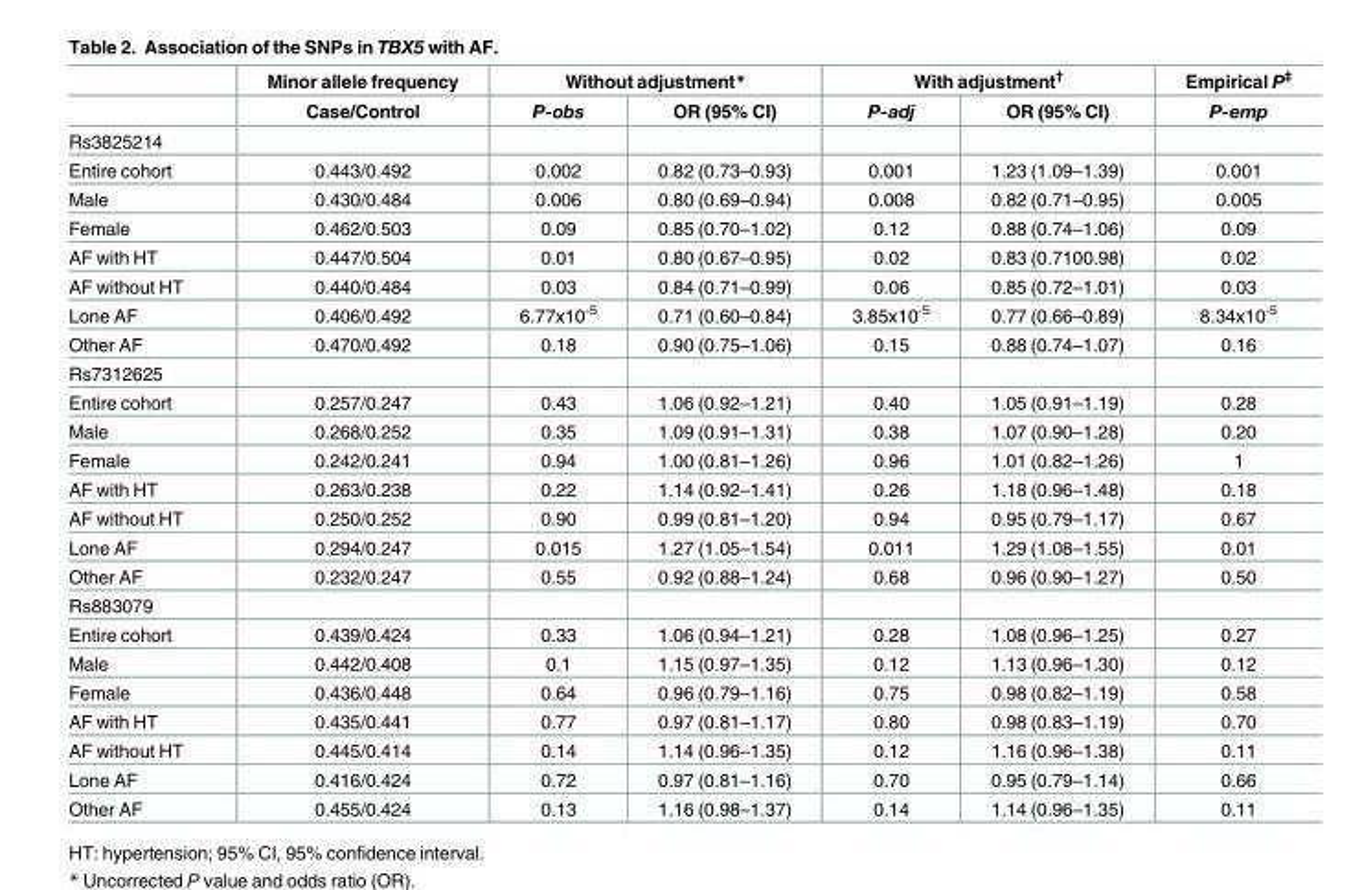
<table><thead><tr><td rowspan="2"></td><td rowspan="2">Minor allele frequency Case/Control</td><td colspan="2">Without adjustment*</td><td colspan="2">With adjustment<sup>†</sup></td><td rowspan="2">Empirical P<sup>‡</sup> P-emp</td></tr><tr><td>P-obs</td><td>OR (95% CI)</td><td>P-adj</td><td>OR (95% CI)</td></tr></thead><tbody><tr><td colspan="7">Rs3825214</td></tr><tr><td>Entire cohort</td><td>0.443/0.492</td><td>0.002</td><td>0.82 (0.73–0.93)</td><td>0.001</td><td>1.23 (1.09–1.39)</td><td>0.001</td></tr><tr><td>Male</td><td>0.430/0.484</td><td>0.006</td><td>0.80 (0.69–0.94)</td><td>0.008</td><td>0.82 (0.71–0.95)</td><td>0.005</td></tr><tr><td>Female</td><td>0.462/0.503</td><td>0.09</td><td>0.85 (0.70–1.02)</td><td>0.12</td><td>0.88 (0.74–1.06)</td><td>0.09</td></tr><tr><td>AF with HT</td><td>0.447/0.504</td><td>0.01</td><td>0.80 (0.67–0.95)</td><td>0.02</td><td>0.83 (0.7100.98)</td><td>0.02</td></tr><tr><td>AF without HT</td><td>0.440/0.484</td><td>0.03</td><td>0.84 (0.71–0.99)</td><td>0.06</td><td>0.85 (0.72–1.01)</td><td>0.03</td></tr><tr><td>Lone AF</td><td>0.406/0.492</td><td>6.77x10<sup>-5</sup></td><td>0.71 (0.60–0.84)</td><td>3.85x10<sup>-5</sup></td><td>0.77 (0.66–0.89)</td><td>8.34x10<sup>-5</sup></td></tr><tr><td>Other AF</td><td>0.470/0.492</td><td>0.18</td><td>0.90 (0.75–1.06)</td><td>0.15</td><td>0.88 (0.74–1.07)</td><td>0.16</td></tr><tr><td colspan="7">Rs7312625</td></tr><tr><td>Entire cohort</td><td>0.257/0.247</td><td>0.43</td><td>1.06 (0.92–1.21)</td><td>0.40</td><td>1.05 (0.91–1.19)</td><td>0.28</td></tr><tr><td>Male</td><td>0.268/0.252</td><td>0.35</td><td>1.09 (0.91–1.31)</td><td>0.38</td><td>1.07 (0.90–1.28)</td><td>0.20</td></tr><tr><td>Female</td><td>0.242/0.241</td><td>0.94</td><td>1.00 (0.81–1.26)</td><td>0.96</td><td>1.01 (0.82–1.26)</td><td>1</td></tr><tr><td>AF with HT</td><td>0.263/0.238</td><td>0.22</td><td>1.14 (0.92–1.41)</td><td>0.26</td><td>1.18 (0.96–1.48)</td><td>0.18</td></tr><tr><td>AF without HT</td><td>0.250/0.252</td><td>0.90</td><td>0.99 (0.81–1.20)</td><td>0.94</td><td>0.95 (0.79–1.17)</td><td>0.67</td></tr><tr><td>Lone AF</td><td>0.294/0.247</td><td>0.015</td><td>1.27 (1.05–1.54)</td><td>0.011</td><td>1.29 (1.08–1.55)</td><td>0.01</td></tr><tr><td>Other AF</td><td>0.232/0.247</td><td>0.55</td><td>0.92 (0.88–1.24)</td><td>0.68</td><td>0.96 (0.90–1.27)</td><td>0.50</td></tr><tr><td colspan="7">Rs883079</td></tr><tr><td>Entire cohort</td><td>0.439/0.424</td><td>0.33</td><td>1.06 (0.94–1.21)</td><td>0.28</td><td>1.08 (0.96–1.25)</td><td>0.27</td></tr><tr><td>Male</td><td>0.442/0.408</td><td>0.1</td><td>1.15 (0.97–1.35)</td><td>0.12</td><td>1.13 (0.96–1.30)</td><td>0.12</td></tr><tr><td>Female</td><td>0.436/0.448</td><td>0.64</td><td>0.96 (0.79–1.16)</td><td>0.75</td><td>0.98 (0.82–1.19)</td><td>0.58</td></tr><tr><td>AF with HT</td><td>0.435/0.441</td><td>0.77</td><td>0.97 (0.81–1.17)</td><td>0.80</td><td>0.98 (0.83–1.19)</td><td>0.70</td></tr><tr><td>AF without HT</td><td>0.445/0.414</td><td>0.14</td><td>1.14 (0.96–1.35)</td><td>0.12</td><td>1.16 (0.96–1.38)</td><td>0.11</td></tr><tr><td>Lone AF</td><td>0.416/0.424</td><td>0.72</td><td>0.97 (0.81–1.16)</td><td>0.70</td><td>0.95 (0.79–1.14)</td><td>0.66</td></tr><tr><td>Other AF</td><td>0.455/0.424</td><td>0.13</td><td>1.16 (0.98–1.37)</td><td>0.14</td><td>1.14 (0.96–1.35)</td><td>0.11</td></tr></tbody></table>